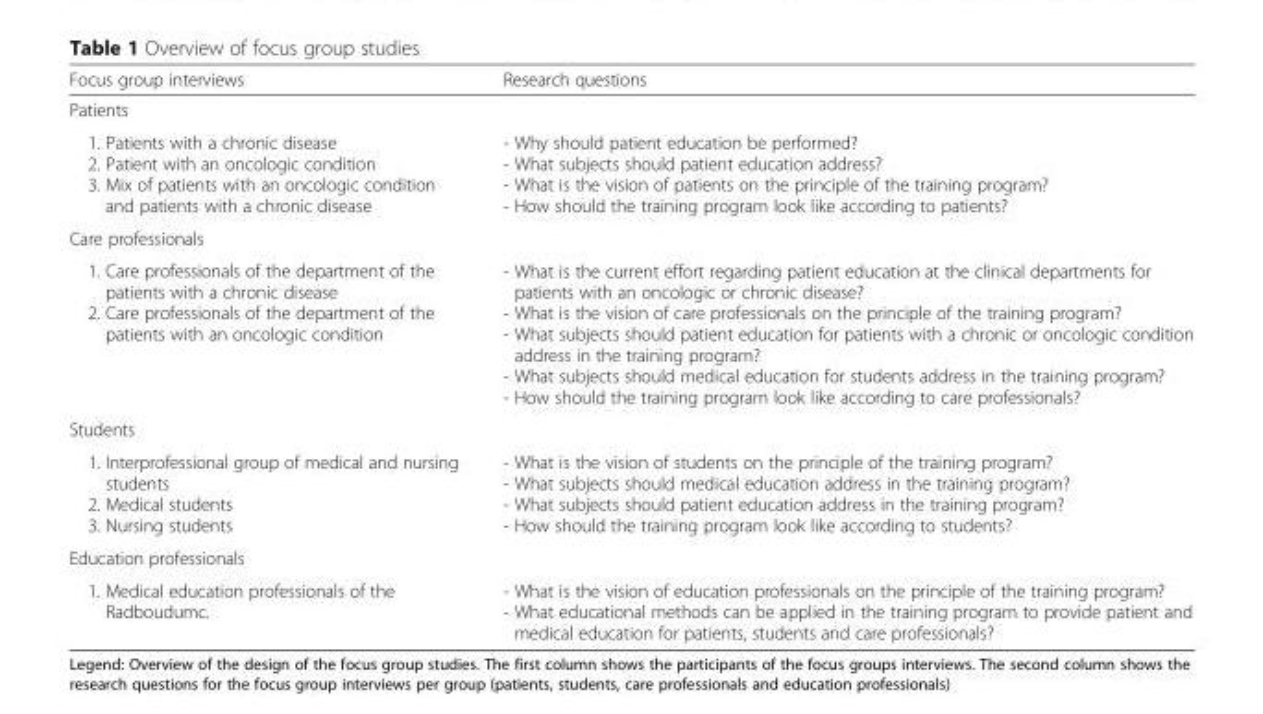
<table><thead><tr><td>Focus group interviews</td><td>Research questions</td></tr></thead><tbody><tr><td colspan="2">Patients</td></tr><tr><td>1. Patients with a chronic disease 2. Patient with an oncologic condition 3. Mix of patients with an oncologic condition and patients with a chronic disease</td><td>- Why should patient education be performed? - What subjects should patient education address? - What is the vision of patients on the principle of the training program? - How should the training program look like according to patients?</td></tr><tr><td colspan="2">Care professionals</td></tr><tr><td>1. Care professionals of the department of the patients with a chronic disease 2. Care professionals of the department of the patients with an oncologic condition</td><td>- What is the current effort regarding patient education at the clinical departments for patients with an oncologic or chronic disease? - What is the vision of care professionals on the principle of the training program? - What subjects should patient education for patients with a chronic or oncologic condition address in the training program? - What subjects should medical education for students address in the training program? - How should the training program look like according to care professionals?</td></tr><tr><td colspan="2">Students</td></tr><tr><td>1. Interprofessional group of medical and nursing students 2. Medical students 3. Nursing students</td><td>- What is the vision of students on the principle of the training program? - What subjects should medical education address in the training program? - What subjects should patient education address in the training program? - How should the training program look like according to students?</td></tr><tr><td colspan="2">Education professionals</td></tr><tr><td>1. Medical education professionals of the Radboudumc.</td><td>- What is the vision of education professionals on the principle of the training program? - What educational methods can be applied in the training program to provide patient and medical education for patients, students and care professionals?</td></tr></tbody></table>